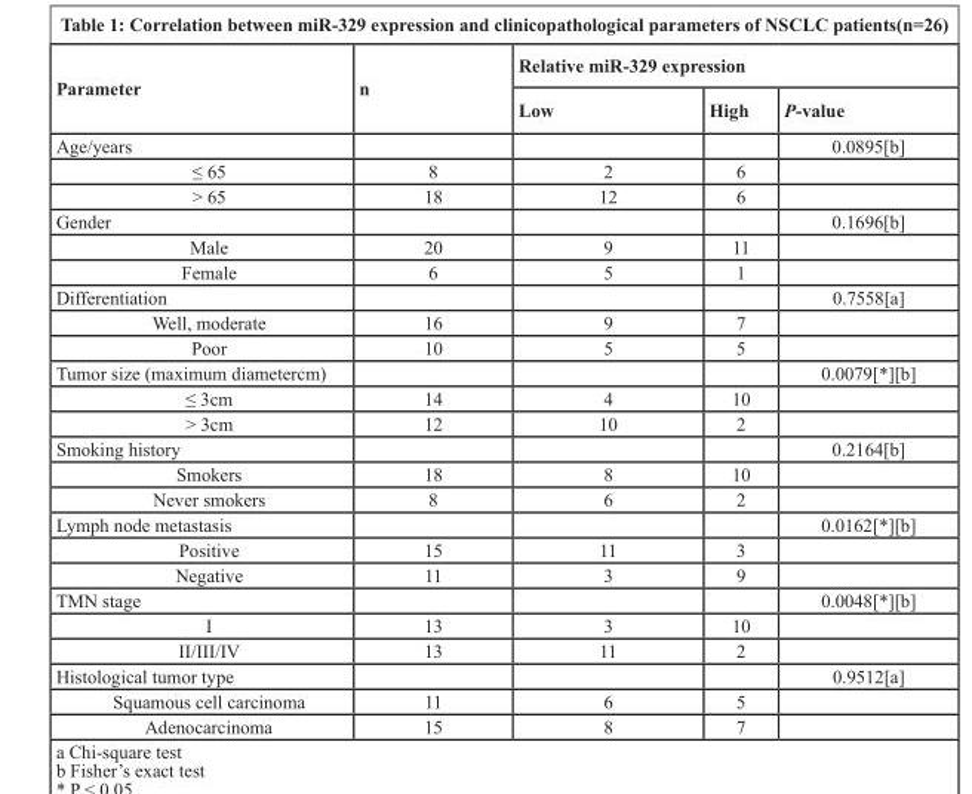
<table><thead><tr><td rowspan="2">Parameter</td><td rowspan="2">n</td><td colspan="3">Relative miR-329 expression</td></tr><tr><td>Low</td><td>High</td><td>P-value</td></tr></thead><tbody><tr><td>Age/years</td><td></td><td></td><td></td><td>0.0895[b]</td></tr><tr><td>≤ 65</td><td>8</td><td>2</td><td>6</td><td></td></tr><tr><td>&gt; 65</td><td>18</td><td>12</td><td>6</td><td></td></tr><tr><td>Gender</td><td></td><td></td><td></td><td>0.1696[b]</td></tr><tr><td>Male</td><td>20</td><td>9</td><td>11</td><td></td></tr><tr><td>Female</td><td>6</td><td>5</td><td>1</td><td></td></tr><tr><td>Differentiation</td><td></td><td></td><td></td><td>0.7558[a]</td></tr><tr><td>Well, moderate</td><td>16</td><td>9</td><td>7</td><td></td></tr><tr><td>Poor</td><td>10</td><td>5</td><td>5</td><td></td></tr><tr><td>Tumor size (maximum diametercm)</td><td></td><td></td><td></td><td>0.0079[*][b]</td></tr><tr><td>≤ 3cm</td><td>14</td><td>4</td><td>10</td><td></td></tr><tr><td>&gt; 3cm</td><td>12</td><td>10</td><td>2</td><td></td></tr><tr><td>Smoking history</td><td></td><td></td><td></td><td>0.2164[b]</td></tr><tr><td>Smokers</td><td>18</td><td>8</td><td>10</td><td></td></tr><tr><td>Never smokers</td><td>8</td><td>6</td><td>2</td><td></td></tr><tr><td>Lymph node metastasis</td><td></td><td></td><td></td><td>0.0162[*][b]</td></tr><tr><td>Positive</td><td>15</td><td>11</td><td>3</td><td></td></tr><tr><td>Negative</td><td>11</td><td>3</td><td>9</td><td></td></tr><tr><td>TMN stage</td><td></td><td></td><td></td><td>0.0048[*][b]</td></tr><tr><td>I</td><td>13</td><td>3</td><td>10</td><td></td></tr><tr><td>II/III/IV</td><td>13</td><td>11</td><td>2</td><td></td></tr><tr><td>Histological tumor type</td><td></td><td></td><td></td><td>0.9512[a]</td></tr><tr><td>Squamous cell carcinoma</td><td>11</td><td>6</td><td>5</td><td></td></tr><tr><td>Adenocarcinoma</td><td>15</td><td>8</td><td>7</td><td></td></tr></tbody></table>